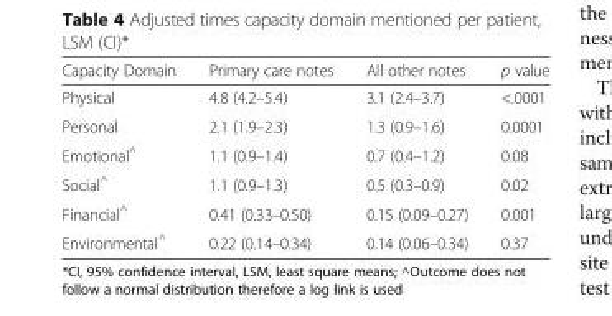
<table><thead><tr><td>Capacity Domain</td><td>Primary care notes</td><td>All other notes</td><td>p value</td></tr></thead><tbody><tr><td>Physical</td><td>4.8 (4.2–5.4)</td><td>3.1 (2.4–3.7)</td><td>&lt;.0001</td></tr><tr><td>Personal</td><td>2.1 (1.9–2.3)</td><td>1.3 (0.9–1.6)</td><td>0.0001</td></tr><tr><td>Emotional<sup>^</sup></td><td>1.1 (0.9–1.4)</td><td>0.7 (0.4–1.2)</td><td>0.08</td></tr><tr><td>Social<sup>^</sup></td><td>1.1 (0.9–1.3)</td><td>0.5 (0.3–0.9)</td><td>0.02</td></tr><tr><td>Financial<sup>^</sup></td><td>0.41 (0.33–0.50)</td><td>0.15 (0.09–0.27)</td><td>0.001</td></tr><tr><td>Environmental<sup>^</sup></td><td>0.22 (0.14–0.34)</td><td>0.14 (0.06–0.34)</td><td>0.37</td></tr></tbody></table>